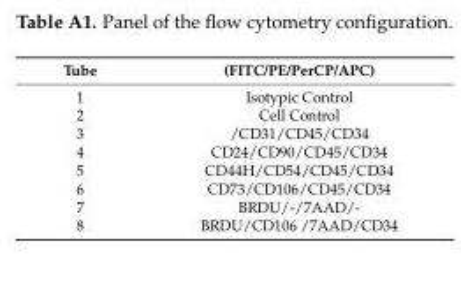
<table><thead><tr><td>Tube</td><td>(FITC/PE/PerCP/APC)</td></tr></thead><tbody><tr><td>1</td><td>Isotypic Control</td></tr><tr><td>2</td><td>Cell Control</td></tr><tr><td>3</td><td>/CD31/CD45/CD34</td></tr><tr><td>4</td><td>CD24/CD90/CD45/CD34</td></tr><tr><td>5</td><td>CD44H/CD54/CD45/CD34</td></tr><tr><td>6</td><td>CD73/CD106/CD45/CD34</td></tr><tr><td>7</td><td>BRDU/-/7AAD/-</td></tr><tr><td>8</td><td>BRDU/CD106 /7AAD/CD34</td></tr></tbody></table>